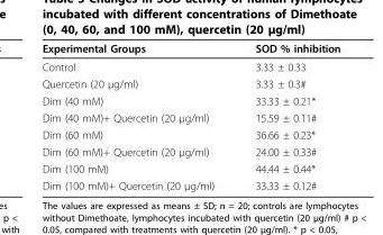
<table><thead><tr><td>Experimental Groups</td><td>SOD % inhibition</td></tr></thead><tbody><tr><td>Control</td><td>3.33 ± 0.33</td></tr><tr><td>Quercetin (20 μg/ml)</td><td>3.33 ± 0.3#</td></tr><tr><td>Dim (40 mM)</td><td>33.33 ± 0.21*</td></tr><tr><td>Dim (40 mM)+ Quercetin (20 μg/ml)</td><td>15.59 ± 0.11#</td></tr><tr><td>Dim (60 mM)</td><td>36.66 ± 0.23*</td></tr><tr><td>Dim (60 mM)+ Quercetin (20 μg/ml)</td><td>24.00 ± 0.33#</td></tr><tr><td>Dim (100 mM)</td><td>44.44 ± 0.44*</td></tr><tr><td>Dim (100 mM)+ Quercetin (20 μg/ml)</td><td>33.33 ± 0.12#</td></tr></tbody></table>